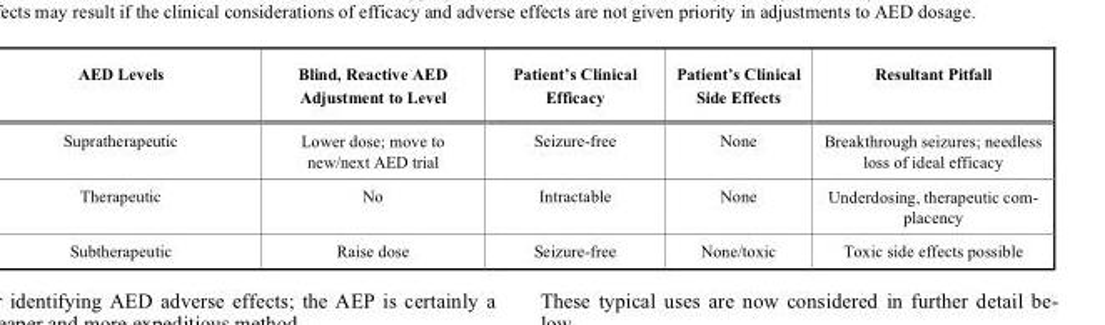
<table><thead><tr><td>AED Levels</td><td>Blind, Reactive AED Adjustment to Level</td><td>Patient’s Clinical Efficacy</td><td>Patient’s Clinical Side Effects</td><td>Resultant Pitfall</td></tr></thead><tbody><tr><td>Supratherapeutic</td><td>Lower dose; move to new/next AED trial</td><td>Seizure-free</td><td>None</td><td>Breakthrough seizures; needless loss of ideal efficacy</td></tr><tr><td>Therapeutic</td><td>No</td><td>Intractable</td><td>None</td><td>Underdosing, therapeutic com- placency</td></tr><tr><td>Subtherapeutic</td><td>Raise dose</td><td>Seizure-free</td><td>None/toxic</td><td>Toxic side effects possible</td></tr></tbody></table>